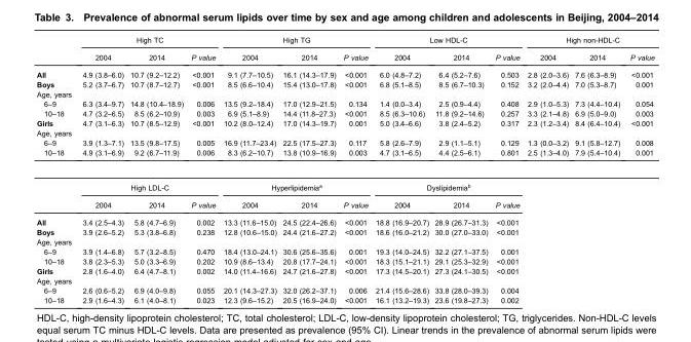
<table><thead><tr><td rowspan="2"></td><td colspan="3">High TC</td><td colspan="3">High TG</td><td colspan="3">Low HDL-C</td><td colspan="3">High non-HDL-C</td></tr><tr><td>2004</td><td>2014</td><td>P value</td><td>2004</td><td>2014</td><td>P value</td><td>2004</td><td>2014</td><td>P value</td><td>2004</td><td>2014</td><td>P value</td></tr></thead><tbody><tr><td>All</td><td>4.9 (3.8–6.0)</td><td>10.7 (9.2–12.2)</td><td>&lt;0.001</td><td>9.1 (7.7–10.5)</td><td>16.1 (14.3–17.9)</td><td>&lt;0.001</td><td>6.0 (4.8–7.2)</td><td>6.4 (5.2–7.6)</td><td>0.503</td><td>2.8 (2.0–3.6)</td><td>7.6 (6.3–8.9)</td><td>&lt;0.001</td></tr><tr><td>Boys</td><td>5.2 (3.7–6.7)</td><td>10.7 (8.7–12.7)</td><td>&lt;0.001</td><td>8.5 (6.6–10.4)</td><td>15.4 (13.0–17.8)</td><td>&lt;0.001</td><td>6.8 (5.1–8.5)</td><td>8.5 (6.7–10.3)</td><td>0.152</td><td>3.2 (2.0–4.4)</td><td>7.0 (5.3–8.7)</td><td>0.001</td></tr><tr><td colspan="13">Age, years</td></tr><tr><td>6–9</td><td>6.3 (3.4–9.7)</td><td>14.8 (10.4–18.9)</td><td>0.006</td><td>13.5 (9.2–18.4)</td><td>17.0 (12.9–21.5)</td><td>0.134</td><td>1.4 (0.0–3.4)</td><td>2.5 (0.9–4.4)</td><td>0.408</td><td>2.9 (1.0–5.3)</td><td>7.3 (4.4–10.4)</td><td>0.054</td></tr><tr><td>10–18</td><td>4.7 (3.2–6.5)</td><td>8.5 (6.2–10.9)</td><td>0.003</td><td>6.9 (5.1–8.9)</td><td>14.4 (11.8–27.3)</td><td>&lt;0.001</td><td>8.5 (6.3–10.6)</td><td>11.8 (9.2–14.6)</td><td>0.257</td><td>3.3 (2.1–4.8)</td><td>6.9 (5.0–9.0)</td><td>0.003</td></tr><tr><td>Girls</td><td>4.7 (3.1–6.3)</td><td>10.7 (8.5–12.9)</td><td>&lt;0.001</td><td>10.2 (8.0–12.4)</td><td>17.0 (14.3–19.7)</td><td>0.001</td><td>5.0 (3.4–6.6)</td><td>3.8 (2.4–5.2)</td><td>0.317</td><td>2.3 (1.2–3.4)</td><td>8.4 (6.4–10.4)</td><td>&lt;0.001</td></tr><tr><td colspan="13">Age, years</td></tr><tr><td>6–9</td><td>3.9 (1.3–7.1)</td><td>13.5 (9.8–17.5)</td><td>0.005</td><td>16.9 (11.7–23.4)</td><td>22.5 (17.5–27.3)</td><td>0.117</td><td>5.8 (2.6–7.9)</td><td>2.9 (1.1–5.1)</td><td>0.129</td><td>1.3 (0.0–3.2)</td><td>9.1 (5.8–12.7)</td><td>0.008</td></tr><tr><td rowspan="3">10–18</td><td>4.9 (3.1–6.9)</td><td>9.2 (6.7–11.9)</td><td>0.006</td><td>8.3 (6.2–10.7)</td><td>13.8 (10.9–16.9)</td><td>0.003</td><td>4.7 (3.1–6.5)</td><td>4.4 (2.5–6.1)</td><td>0.801</td><td>2.5 (1.3–4.0)</td><td>7.9 (5.4–10.4)</td><td>0.001</td></tr><tr><td colspan="3">High LDL-C</td><td colspan="3">Hyperlipidemia<sup>a</sup></td><td colspan="3">Dyslipidemia<sup>b</sup></td><td></td><td></td><td></td></tr><tr><td>2004</td><td>2014</td><td>P value</td><td>2004</td><td>2014</td><td>P value</td><td>2004</td><td>2014</td><td>P value</td><td></td><td></td><td></td></tr><tr><td>All</td><td>3.4 (2.5–4.3)</td><td>5.8 (4.7–6.9)</td><td>0.002</td><td>13.3 (11.6–15.0)</td><td>24.5 (22.4–26.6)</td><td>&lt;0.001</td><td>18.8 (16.9–20.7)</td><td>28.9 (26.7–31.3)</td><td>&lt;0.001</td><td></td><td></td><td></td></tr><tr><td>Boys</td><td>3.9 (2.6–5.2)</td><td>5.3 (3.8–6.8)</td><td>0.238</td><td>12.8 (10.6–15.0)</td><td>24.4 (21.6–27.2)</td><td>&lt;0.001</td><td>18.6 (16.0–21.2)</td><td>30.0 (27.0–33.0)</td><td>&lt;0.001</td><td></td><td></td><td></td></tr><tr><td colspan="13">Age, years</td></tr><tr><td>6–9</td><td>3.9 (1.4–6.8)</td><td>5.7 (3.2–8.5)</td><td>0.470</td><td>18.4 (13.0–24.1)</td><td>30.6 (25.6–35.6)</td><td>0.001</td><td>19.3 (14.0–24.5)</td><td>32.2 (27.1–37.5)</td><td>0.001</td><td></td><td></td><td></td></tr><tr><td>10–18</td><td>3.8 (2.3–5.3)</td><td>5.0 (3.3–6.9)</td><td>0.202</td><td>10.9 (8.6–13.4)</td><td>20.8 (17.7–24.1)</td><td>&lt;0.001</td><td>18.3 (15.1–21.1)</td><td>29.1 (25.3–32.9)</td><td>&lt;0.001</td><td></td><td></td><td></td></tr><tr><td>Girls</td><td>2.8 (1.6–4.0)</td><td>6.4 (4.7–8.1)</td><td>0.002</td><td>14.0 (11.4–16.6)</td><td>24.7 (21.6–27.8)</td><td>&lt;0.001</td><td>17.3 (14.5–20.1)</td><td>27.3 (24.1–30.5)</td><td>&lt;0.001</td><td></td><td></td><td></td></tr><tr><td colspan="13">Age, years</td></tr><tr><td>6–9</td><td>2.6 (0.6–5.2)</td><td>6.9 (4.0–9.8)</td><td>0.055</td><td>20.1 (14.3–27.3)</td><td>32.0 (26.2–37.1)</td><td>0.006</td><td>21.4 (15.6–28.6)</td><td>33.8 (28.0–39.3)</td><td>0.004</td><td></td><td></td><td></td></tr><tr><td>10–18</td><td>2.9 (1.6–4.3)</td><td>6.1 (4.0–8.1)</td><td>0.023</td><td>12.3 (9.6–15.2)</td><td>20.5 (16.9–24.0)</td><td>&lt;0.001</td><td>16.1 (13.2–19.3)</td><td>23.6 (19.8–27.3)</td><td>0.002</td><td></td><td></td><td></td></tr></tbody></table>